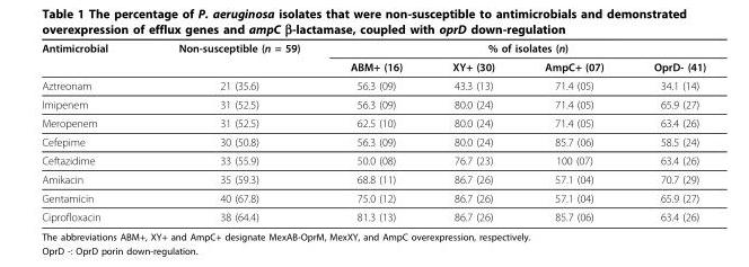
<table><thead><tr><td rowspan="2">Antimicrobial</td><td rowspan="2">Non-susceptible (n = 59)</td><td colspan="4">% of isolates (n)</td></tr><tr><td>ABM+ (16)</td><td>XY+ (30)</td><td>AmpC+ (07)</td><td>OprD- (41)</td></tr></thead><tbody><tr><td>Aztreonam</td><td>21 (35.6)</td><td>56.3 (09)</td><td>43.3 (13)</td><td>71.4 (05)</td><td>34.1 (14)</td></tr><tr><td>Imipenem</td><td>31 (52.5)</td><td>56.3 (09)</td><td>80.0 (24)</td><td>71.4 (05)</td><td>65.9 (27)</td></tr><tr><td>Meropenem</td><td>31 (52.5)</td><td>62.5 (10)</td><td>80.0 (24)</td><td>71.4 (05)</td><td>63.4 (26)</td></tr><tr><td>Cefepime</td><td>30 (50.8)</td><td>56.3 (09)</td><td>80.0 (24)</td><td>85.7 (06)</td><td>58.5 (24)</td></tr><tr><td>Ceftazidime</td><td>33 (55.9)</td><td>50.0 (08)</td><td>76.7 (23)</td><td>100 (07)</td><td>63.4 (26)</td></tr><tr><td>Amikacin</td><td>35 (59.3)</td><td>68.8 (11)</td><td>86.7 (26)</td><td>57.1 (04)</td><td>70.7 (29)</td></tr><tr><td>Gentamicin</td><td>40 (67.8)</td><td>75.0 (12)</td><td>86.7 (26)</td><td>57.1 (04)</td><td>65.9 (27)</td></tr><tr><td>Ciprofloxacin</td><td>38 (64.4)</td><td>81.3 (13)</td><td>86.7 (26)</td><td>85.7 (06)</td><td>63.4 (26)</td></tr></tbody></table>